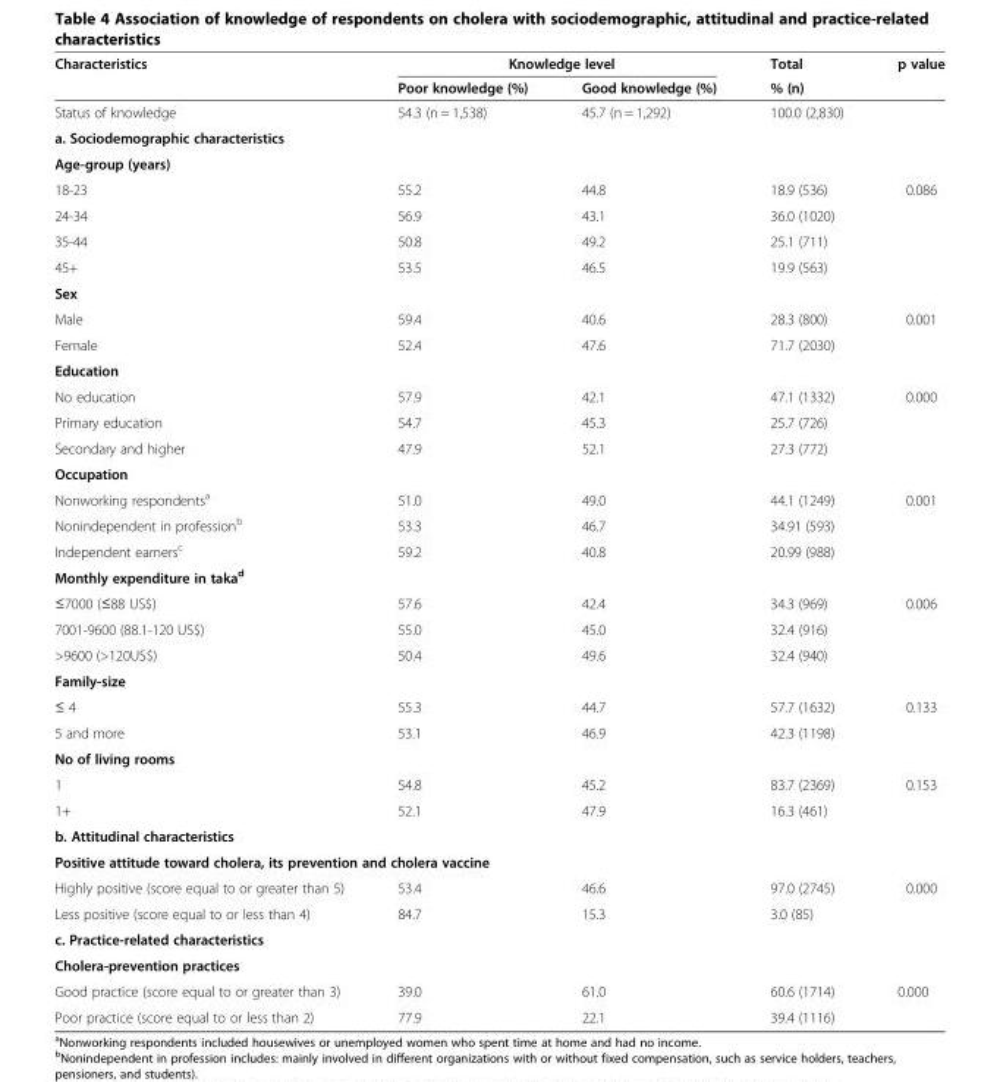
<table><thead><tr><td rowspan="2">Characteristics</td><td colspan="2">Knowledge level</td><td rowspan="2">Total % (n)</td><td rowspan="2">p value</td></tr><tr><td>Poor knowledge (%)</td><td>Good knowledge (%)</td></tr></thead><tbody><tr><td>Status of knowledge</td><td>54.3 (n = 1,538)</td><td>45.7 (n = 1,292)</td><td>100.0 (2,830)</td><td></td></tr><tr><td colspan="5">a. Sociodemographic characteristics</td></tr><tr><td colspan="5">Age-group (years)</td></tr><tr><td>18-23</td><td>55.2</td><td>44.8</td><td>18.9 (536)</td><td rowspan="4">0.086</td></tr><tr><td>24-34</td><td>56.9</td><td>43.1</td><td>36.0 (1020)</td></tr><tr><td>35-44</td><td>50.8</td><td>49.2</td><td>25.1 (711)</td></tr><tr><td>45+</td><td>53.5</td><td>46.5</td><td>19.9 (563)</td></tr><tr><td colspan="5">Sex</td></tr><tr><td>Male</td><td>59.4</td><td>40.6</td><td>28.3 (800)</td><td rowspan="2">0.001</td></tr><tr><td>Female</td><td>52.4</td><td>47.6</td><td>71.7 (2030)</td></tr><tr><td colspan="5">Education</td></tr><tr><td>No education</td><td>57.9</td><td>42.1</td><td>47.1 (1332)</td><td rowspan="3">0.000</td></tr><tr><td>Primary education</td><td>54.7</td><td>45.3</td><td>25.7 (726)</td></tr><tr><td>Secondary and higher</td><td>47.9</td><td>52.1</td><td>27.3 (772)</td></tr><tr><td colspan="5">Occupation</td></tr><tr><td>Nonworking respondents<sup>a</sup></td><td>51.0</td><td>49.0</td><td>44.1 (1249)</td><td rowspan="3">0.001</td></tr><tr><td>Nonindependent in profession<sup>b</sup></td><td>53.3</td><td>46.7</td><td>34.91 (593)</td></tr><tr><td>Independent earners<sup>c</sup></td><td>59.2</td><td>40.8</td><td>20.99 (988)</td></tr><tr><td colspan="5">Monthly expenditure in taka<sup>d</sup></td></tr><tr><td>≤7000 (≤88 US$)</td><td>57.6</td><td>42.4</td><td>34.3 (969)</td><td rowspan="3">0.006</td></tr><tr><td>7001-9600 (88.1-120 US$)</td><td>55.0</td><td>45.0</td><td>32.4 (916)</td></tr><tr><td>&gt;9600 (&gt;120US$)</td><td>50.4</td><td>49.6</td><td>32.4 (940)</td></tr><tr><td colspan="5">Family-size</td></tr><tr><td>≤ 4</td><td>55.3</td><td>44.7</td><td>57.7 (1632)</td><td rowspan="2">0.133</td></tr><tr><td>5 and more</td><td>53.1</td><td>46.9</td><td>42.3 (1198)</td></tr><tr><td colspan="5">No of living rooms</td></tr><tr><td>1</td><td>54.8</td><td>45.2</td><td>83.7 (2369)</td><td rowspan="2">0.153</td></tr><tr><td>1+</td><td>52.1</td><td>47.9</td><td>16.3 (461)</td></tr><tr><td colspan="5">b. Attitudinal characteristics</td></tr><tr><td colspan="5">Positive attitude toward cholera, its prevention and cholera vaccine</td></tr><tr><td>Highly positive (score equal to or greater than 5)</td><td>53.4</td><td>46.6</td><td>97.0 (2745)</td><td>0.000</td></tr><tr><td>Less positive (score equal to or less than 4)</td><td>84.7</td><td>15.3</td><td>3.0 (85)</td><td></td></tr><tr><td colspan="5">c. Practice-related characteristics</td></tr><tr><td colspan="5">Cholera-prevention practices</td></tr><tr><td>Good practice (score equal to or greater than 3)</td><td>39.0</td><td>61.0</td><td>60.6 (1714)</td><td>0.000</td></tr><tr><td>Poor practice (score equal to or less than 2)</td><td>77.9</td><td>22.1</td><td>39.4 (1116)</td><td></td></tr></tbody></table>